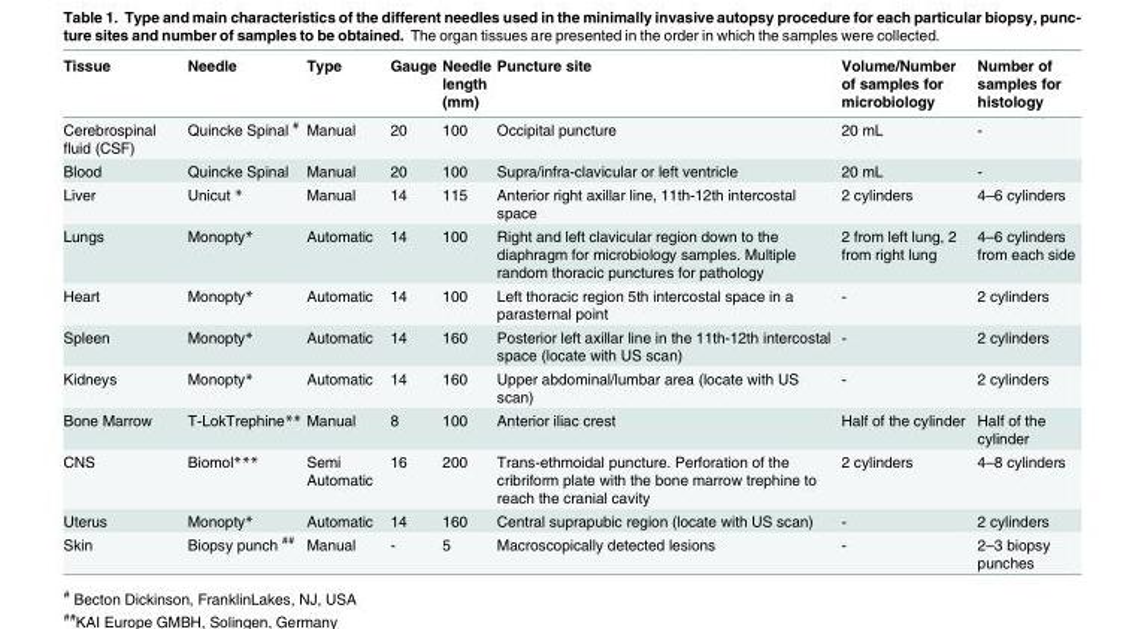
<table><thead><tr><td>Tissue</td><td>Needle</td><td>Type</td><td>Gauge</td><td>Needle length (mm)</td><td>Puncture site</td><td>Volume/Number of samples for microbiology</td><td>Number of samples for histology</td></tr></thead><tbody><tr><td>Cerebrospinal fluid (CSF)</td><td>Quincke Spinal <sup>#</sup></td><td>Manual</td><td>20</td><td>100</td><td>Occipital puncture</td><td>20 mL</td><td>-</td></tr><tr><td>Blood</td><td>Quincke Spinal</td><td>Manual</td><td>20</td><td>100</td><td>Supra/infra-clavicular or left ventricle</td><td>20 mL</td><td>-</td></tr><tr><td>Liver</td><td>Unicut *</td><td>Manual</td><td>14</td><td>115</td><td>Anterior right axillar line, 11th-12th intercostal space</td><td>2 cylinders</td><td>4–6 cylinders</td></tr><tr><td>Lungs</td><td>Monopty*</td><td>Automatic</td><td>14</td><td>100</td><td>Right and left clavicular region down to the diaphragm for microbiology samples. Multiple random thoracic punctures for pathology</td><td>2 from left lung, 2 from right lung</td><td>4–6 cylinders from each side</td></tr><tr><td>Heart</td><td>Monopty*</td><td>Automatic</td><td>14</td><td>100</td><td>Left thoracic region 5th intercostal space in a parasternal point</td><td>-</td><td>2 cylinders</td></tr><tr><td>Spleen</td><td>Monopty*</td><td>Automatic</td><td>14</td><td>160</td><td>Posterior left axillar line in the 11th-12th intercostal space (locate with US scan)</td><td>-</td><td>2 cylinders</td></tr><tr><td>Kidneys</td><td>Monopty*</td><td>Automatic</td><td>14</td><td>160</td><td>Upper abdominal/lumbar area (locate with US scan)</td><td>-</td><td>2 cylinders</td></tr><tr><td>Bone Marrow</td><td>T-LokTrephine**</td><td>Manual</td><td>8</td><td>100</td><td>Anterior iliac crest</td><td>Half of the cylinder</td><td>Half of the cylinder</td></tr><tr><td>CNS</td><td>Biomol***</td><td>Semi Automatic</td><td>16</td><td>200</td><td>Trans-ethmoidal puncture. Perforation of the cribriform plate with the bone marrow trephine to reach the cranial cavity</td><td>2 cylinders</td><td>4–8 cylinders</td></tr><tr><td>Uterus</td><td>Monopty*</td><td>Automatic</td><td>14</td><td>160</td><td>Central suprapubic region (locate with US scan)</td><td>-</td><td>2 cylinders</td></tr><tr><td>Skin</td><td>Biopsy punch <sup>##</sup></td><td>Manual</td><td>-</td><td>5</td><td>Macroscopically detected lesions</td><td>-</td><td>2–3 biopsy punches</td></tr></tbody></table>